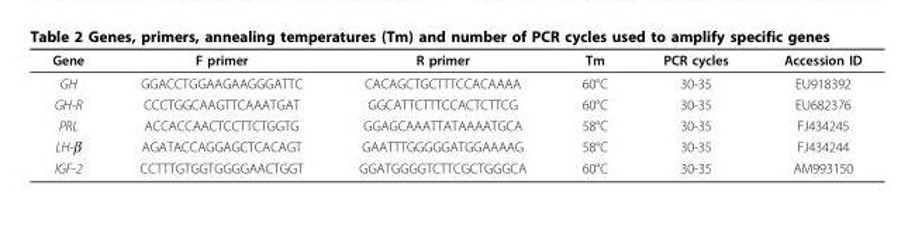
<table><thead><tr><td>Gene</td><td>F primer</td><td>R primer</td><td>Tm</td><td>PCR cycles</td><td>Accession ID</td></tr></thead><tbody><tr><td>GH</td><td>GGACCTGGAAGAAGGGATTC</td><td>CACAGCTGCTTTCCACAAAA</td><td>60°C</td><td>30-35</td><td>EU918392</td></tr><tr><td>GH-R</td><td>CCCTGGCAAGTTCAAATGAT</td><td>GGCATTCTTTCCACTCTTCG</td><td>60°C</td><td>30-35</td><td>EU682376</td></tr><tr><td>PRL</td><td>ACCACCAACTCCTTCTGGTG</td><td>GGAGCAAATTATAAAATGCA</td><td>58°C</td><td>30-35</td><td>FJ434245</td></tr><tr><td>LH-β</td><td>AGATACCAGGAGCTCACAGT</td><td>GAATTTGGGGGATGGAAAAG</td><td>58°C</td><td>30-35</td><td>FJ434244</td></tr><tr><td>IGF-2</td><td>CCTTTGTGGTGGGGAACTGGT</td><td>GGATGGGGTCTTCGCTGGGCA</td><td>60°C</td><td>30-35</td><td>AM993150</td></tr></tbody></table>